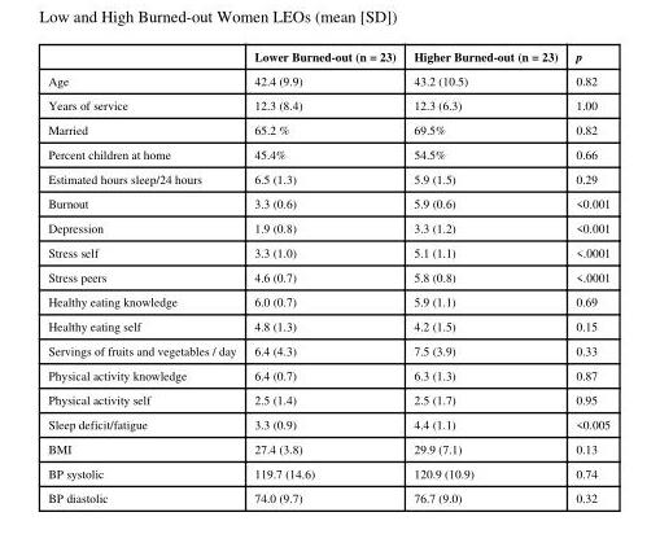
<table><thead><tr><td></td><td>Lower Burned-out (n = 23)</td><td>Higher Burned-out (n = 23)</td><td>p</td></tr></thead><tbody><tr><td>Age</td><td>42.4 (9.9)</td><td>43.2 (10.5)</td><td>0.82</td></tr><tr><td>Years of service</td><td>12.3 (8.4)</td><td>12.3 (6.3)</td><td>1.00</td></tr><tr><td>Married</td><td>65.2 %</td><td>69.5%</td><td>0.82</td></tr><tr><td>Percent children at home</td><td>45.4%</td><td>54.5%</td><td>0.66</td></tr><tr><td>Estimated hours sleep/24 hours</td><td>6.5 (1.3)</td><td>5.9 (1.5)</td><td>0.29</td></tr><tr><td>Burnout</td><td>3.3 (0.6)</td><td>5.9 (0.6)</td><td>&lt;0.001</td></tr><tr><td>Depression</td><td>1.9 (0.8)</td><td>3.3 (1.2)</td><td>&lt;0.001</td></tr><tr><td>Stress self</td><td>3.3 (1.0)</td><td>5.1 (1.1)</td><td>&lt;.0001</td></tr><tr><td>Stress peers</td><td>4.6 (0.7)</td><td>5.8 (0.8)</td><td>&lt;.0001</td></tr><tr><td>Healthy eating knowledge</td><td>6.0 (0.7)</td><td>5.9 (1.1)</td><td>0.69</td></tr><tr><td>Healthy eating self</td><td>4.8 (1.3)</td><td>4.2 (1.5)</td><td>0.15</td></tr><tr><td>Servings of fruits and vegetables / day</td><td>6.4 (4.3)</td><td>7.5 (3.9)</td><td>0.33</td></tr><tr><td>Physical activity knowledge</td><td>6.4 (0.7)</td><td>6.3 (1.3)</td><td>0.87</td></tr><tr><td>Physical activity self</td><td>2.5 (1.4)</td><td>2.5 (1.7)</td><td>0.95</td></tr><tr><td>Sleep deficit/fatigue</td><td>3.3 (0.9)</td><td>4.4 (1.1)</td><td>&lt;0.005</td></tr><tr><td>BMI</td><td>27.4 (3.8)</td><td>29.9 (7.1)</td><td>0.13</td></tr><tr><td>BP systolic</td><td>119.7 (14.6)</td><td>120.9 (10.9)</td><td>0.74</td></tr><tr><td>BP diastolic</td><td>74.0 (9.7)</td><td>76.7 (9.0)</td><td>0.32</td></tr></tbody></table>